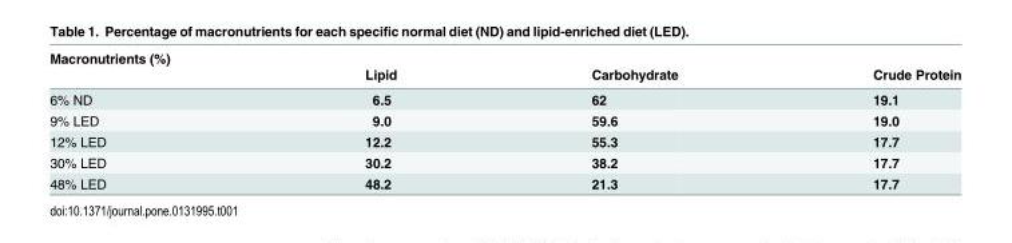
<table><thead><tr><td rowspan="2">Macronutrients (%)</td><td rowspan="2">Lipid</td><td rowspan="2">Carbohydrate</td><td rowspan="2">Crude Protein</td></tr><tr></tr></thead><tbody><tr><td>6% ND</td><td>6.5</td><td>62</td><td>19.1</td></tr><tr><td>9% LED</td><td>9.0</td><td>59.6</td><td>19.0</td></tr><tr><td>12% LED</td><td>12.2</td><td>55.3</td><td>17.7</td></tr><tr><td>30% LED</td><td>30.2</td><td>38.2</td><td>17.7</td></tr><tr><td>48% LED</td><td>48.2</td><td>21.3</td><td>17.7</td></tr></tbody></table>